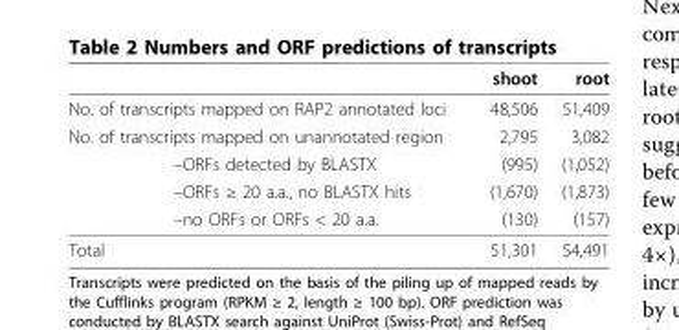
<table><thead><tr><td></td><td></td><td>shoot</td><td>root</td></tr></thead><tbody><tr><td colspan="2">No. of transcripts mapped on RAP2 annotated loci</td><td>48,506</td><td>51,409</td></tr><tr><td colspan="2">No. of transcripts mapped on unannotated region</td><td>2,795</td><td>3,082</td></tr><tr><td></td><td>–ORFs detected by BLASTX</td><td>(995)</td><td>(1,052)</td></tr><tr><td></td><td>–ORFs ≥ 20 a.a., no BLASTX hits</td><td>(1,670)</td><td>(1,873)</td></tr><tr><td></td><td>–no ORFs or ORFs &lt; 20 a.a.</td><td>(130)</td><td>(157)</td></tr><tr><td>Total</td><td></td><td>51,301</td><td>54,491</td></tr></tbody></table>